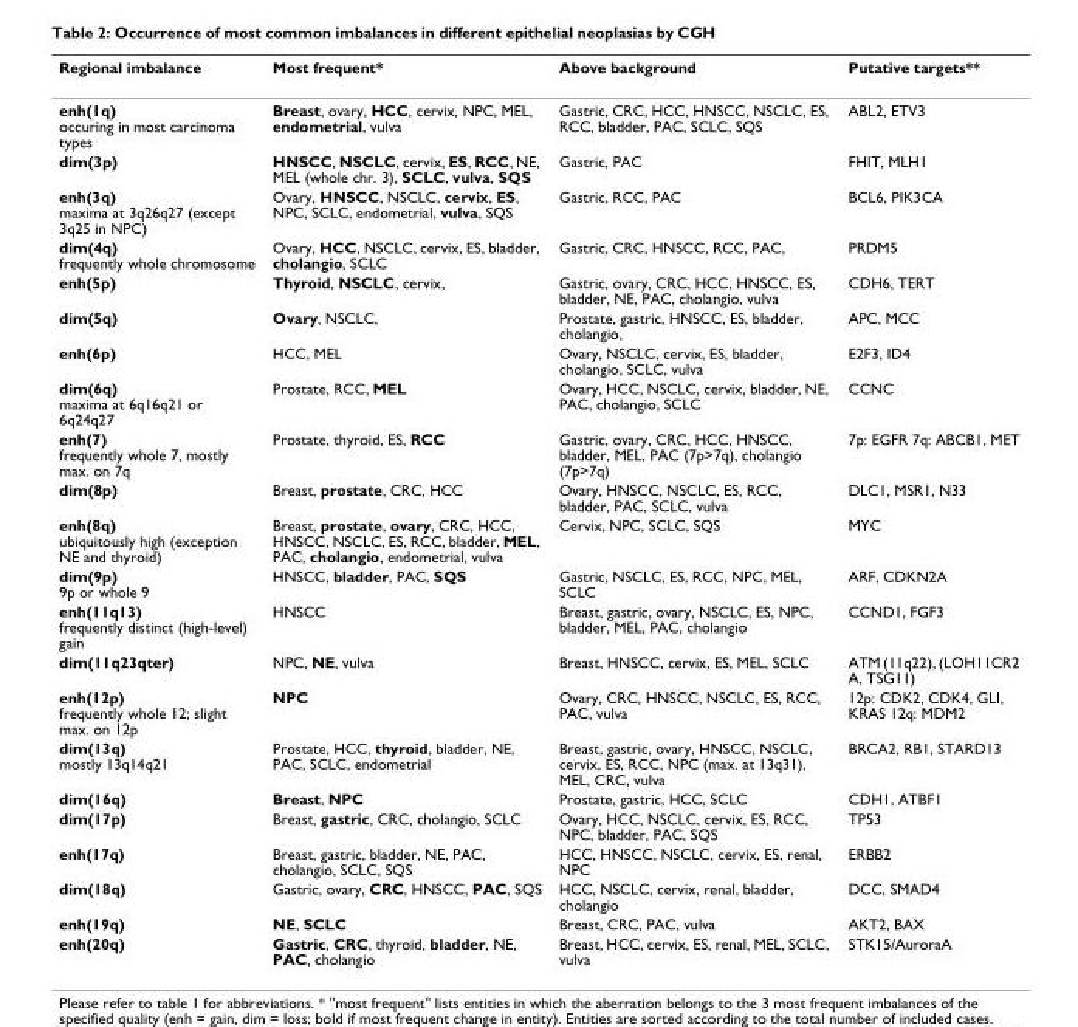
<table><thead><tr><td>Regional imbalance</td><td>Most frequent*</td><td>Above background</td><td>Putative targets**</td></tr></thead><tbody><tr><td>enh(1q) occuring in most carcinoma types</td><td>Breast, ovary, HCC, cervix, NPC, MEL, endometrial, vulva</td><td>Gastric, CRC, HCC, HNSCC, NSCLC, ES, RCC, bladder, PAC, SCLC, SQS</td><td>ABL2, ETV3</td></tr><tr><td>dim(3p)</td><td>HNSCC, NSCLC, cervix, ES, RCC, NE, MEL (whole chr. 3), SCLC, vulva, SQS</td><td>Gastric, PAC</td><td>FHIT, MLH1</td></tr><tr><td>enh(3q) maxima at 3q26q27 (except 3q25 in NPC)</td><td>Ovary, HNSCC, NSCLC, cervix, ES, NPC, SCLC, endometrial, vulva, SQS</td><td>Gastric, RCC, PAC</td><td>BCL6, PIK3CA</td></tr><tr><td>dim(4q) frequently whole chromosome</td><td>Ovary, HCC, NSCLC, cervix, ES, bladder, cholangio, SCLC</td><td>Gastric, CRC, HNSCC, RCC, PAC,</td><td>PRDM5</td></tr><tr><td>enh(5p)</td><td>Thyroid, NSCLC, cervix,</td><td>Gastric, ovary, CRC, HCC, HNSCC, ES, bladder, NE, PAC, cholangio, vulva</td><td>CDH6, TERT</td></tr><tr><td>dim(5q)</td><td>Ovary, NSCLC,</td><td>Prostate, gastric, HNSCC, ES, bladder, cholangio,</td><td>APC, MCC</td></tr><tr><td>enh(6p)</td><td>HCC, MEL</td><td>Ovary, NSCLC, cervix, ES, bladder, cholangio, SCLC, vulva</td><td>E2F3, ID4</td></tr><tr><td>dim(6q) maxima at 6q16q21 or 6q24q27</td><td>Prostate, RCC, MEL</td><td>Ovary, HCC, NSCLC, cervix, bladder, NE, PAC, cholangio, SCLC</td><td>CCNC</td></tr><tr><td>enh(7) frequently whole 7, mostly max. on 7q</td><td>Prostate, thyroid, ES, RCC</td><td>Gastric, ovary, CRC, HCC, HNSCC, bladder, MEL, PAC (7p&gt;7q), cholangio (7p&gt;7q)</td><td>7p: EGFR 7q: ABCB1, MET</td></tr><tr><td>dim(8p)</td><td>Breast, prostate, CRC, HCC</td><td>Ovary, HNSCC, NSCLC, ES, RCC, bladder, PAC, SCLC, vulva</td><td>DLC1, MSR1, N33</td></tr><tr><td>enh(8q) ubiquitously high (exception NE and thyroid)</td><td>Breast, prostate, ovary, CRC, HCC, HNSCC, NSCLC, ES, RCC, bladder, MEL, PAC, cholangio, endometrial, vulva</td><td>Cervix, NPC, SCLC, SQS</td><td>MYC</td></tr><tr><td>dim(9p) 9p or whole 9</td><td>HNSCC, bladder, PAC, SQS</td><td>Gastric, NSCLC, ES, RCC, NPC, MEL, SCLC</td><td>ARF, CDKN2A</td></tr><tr><td>enh(11q13) frequently distinct (high-level) gain</td><td>HNSCC</td><td>Breast, gastric, ovary, NSCLC, ES, NPC, bladder, MEL, PAC, cholangio</td><td>CCND1, FGF3</td></tr><tr><td>dim(11q23qter)</td><td>NPC, NE, vulva</td><td>Breast, HNSCC, cervix, ES, MEL, SCLC</td><td>ATM (11q22), (LOH11CR2 A, TSG11)</td></tr><tr><td>enh(12p) frequently whole 12; slight max. on 12p</td><td>NPC</td><td>Ovary, CRC, HNSCC, NSCLC, ES, RCC, PAC, vulva</td><td>12p: CDK2, CDK4, GLI, KRAS 12q: MDM2</td></tr><tr><td>dim(13q) mostly 13q14q21</td><td>Prostate, HCC, thyroid, bladder, NE, PAC, SCLC, endometrial</td><td>Breast, gastric, ovary, HNSCC, NSCLC, cervix, ES, RCC, NPC (max. at 13q31), MEL, CRC, vulva</td><td>BRCA2, RB1, STARD13</td></tr><tr><td>dim(16q)</td><td>Breast, NPC</td><td>Prostate, gastric, HCC, SCLC</td><td>CDH1, ATBF1</td></tr><tr><td>dim(17p)</td><td>Breast, gastric, CRC, cholangio, SCLC</td><td>Ovary, HCC, NSCLC, cervix, ES, RCC, NPC, bladder, PAC, SQS</td><td>TP53</td></tr><tr><td>enh(17q)</td><td>Breast, gastric, bladder, NE, PAC, cholangio, SCLC, SQS</td><td>HCC, HNSCC, NSCLC, cervix, ES, renal, NPC</td><td>ERBB2</td></tr><tr><td>dim(18q)</td><td>Gastric, ovary, CRC, HNSCC, PAC, SQS</td><td>HCC, NSCLC, cervix, renal, bladder, cholangio</td><td>DCC, SMAD4</td></tr><tr><td>enh(19q)</td><td>NE, SCLC</td><td>Breast, CRC, PAC, vulva</td><td>AKT2, BAX</td></tr><tr><td>enh(20q)</td><td>Gastric, CRC, thyroid, bladder, NE, PAC, cholangio</td><td>Breast, HCC, cervix, ES, renal, MEL, SCLC, vulva</td><td>STK15/AuroraA</td></tr></tbody></table>